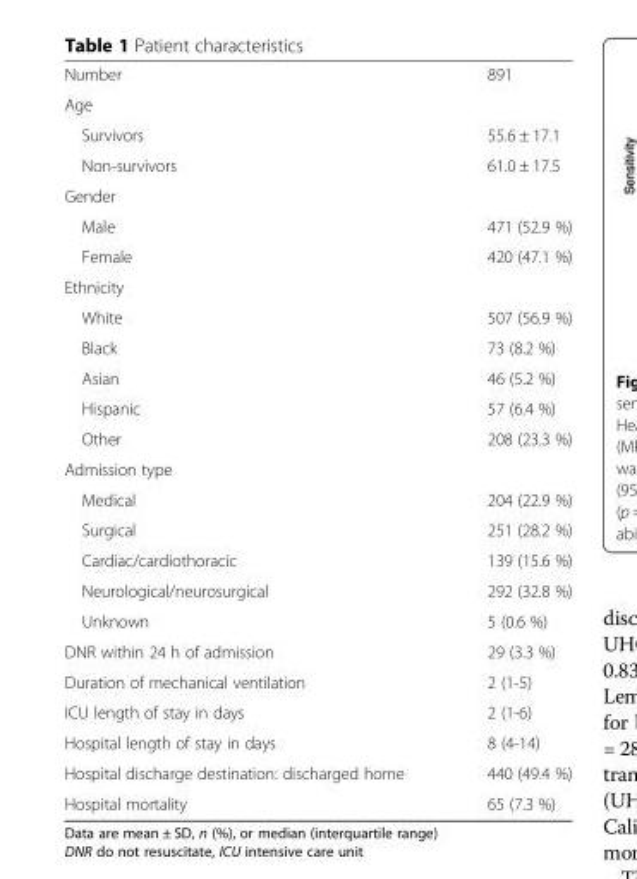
<table><tbody><tr><td>Number</td><td>891</td></tr><tr><td colspan="2">Age</td></tr><tr><td>Survivors</td><td>55.6 ± 17.1</td></tr><tr><td>Non-survivors</td><td>61.0 ± 17.5</td></tr><tr><td colspan="2">Gender</td></tr><tr><td>Male</td><td>471 (52.9 %)</td></tr><tr><td>Female</td><td>420 (47.1 %)</td></tr><tr><td colspan="2">Ethnicity</td></tr><tr><td>White</td><td>507 (56.9 %)</td></tr><tr><td>Black</td><td>73 (8.2 %)</td></tr><tr><td>Asian</td><td>46 (5.2 %)</td></tr><tr><td>Hispanic</td><td>57 (6.4 %)</td></tr><tr><td>Other</td><td>208 (23.3 %)</td></tr><tr><td colspan="2">Admission type</td></tr><tr><td>Medical</td><td>204 (22.9 %)</td></tr><tr><td>Surgical</td><td>251 (28.2 %)</td></tr><tr><td>Cardiac/cardiothoracic</td><td>139 (15.6 %)</td></tr><tr><td>Neurological/neurosurgical</td><td>292 (32.8 %)</td></tr><tr><td>Unknown</td><td>5 (0.6 %)</td></tr><tr><td>DNR within 24 h of admission</td><td>29 (3.3 %)</td></tr><tr><td>Duration of mechanical ventilation</td><td>2 (1-5)</td></tr><tr><td>ICU length of stay in days</td><td>2 (1-6)</td></tr><tr><td>Hospital length of stay in days</td><td>8 (4-14)</td></tr><tr><td>Hospital discharge destination: discharged home</td><td>440 (49.4 %)</td></tr><tr><td>Hospital mortality</td><td>65 (7.3 %)</td></tr></tbody></table>